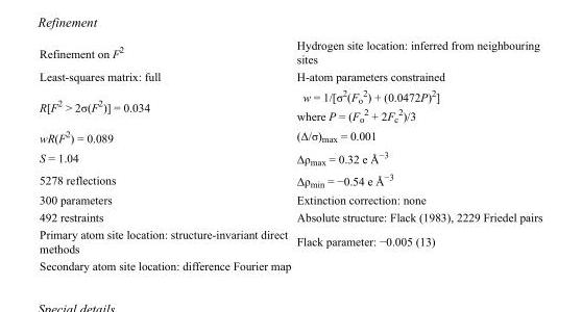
<table><tbody><tr><td>Refinement on F<sup>2</sup></td><td>Hydrogen site location: inferred from neighbouring sites</td></tr><tr><td>Least-squares matrix: full</td><td>H-atom parameters constrained</td></tr><tr><td>R[F<sup>2</sup> &gt; 2σ(F<sup>2</sup>)] = 0.034</td><td>w = 1/[σ<sup>2</sup>(F<sub>o</sub> <sup>2</sup>) + (0.0472P)<sup>2</sup>] where P = (F<sub>o</sub> <sup>2</sup> + 2F<sub>c</sub> <sup>2</sup>)/3</td></tr><tr><td>wR(F<sup>2</sup>) = 0.089</td><td>(Δ/σ)<sub>max</sub> = 0.001</td></tr><tr><td>S = 1.04</td><td>Δρ<sub>max</sub> = 0.32 e Å<sup>−3</sup></td></tr><tr><td>5278 reflections</td><td>Δρ<sub>min</sub> = −0.54 e Å<sup>−3</sup></td></tr><tr><td>300 parameters</td><td>Extinction correction: none</td></tr><tr><td>492 restraints</td><td>Absolute structure: Flack (1983), 2229 Friedel pairs</td></tr><tr><td>Primary atom site location: structure-invariant direct methods</td><td>Flack parameter: −0.005 (13)</td></tr><tr><td>Secondary atom site location: difference Fourier map</td><td></td></tr></tbody></table>